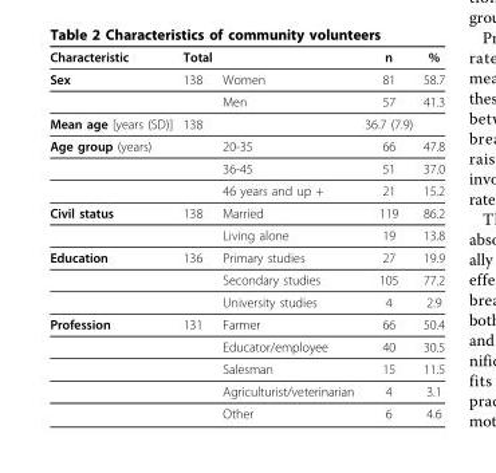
<table><thead><tr><td>Characteristic</td><td>Total</td><td></td><td>n</td><td>%</td></tr></thead><tbody><tr><td rowspan="2">Sex</td><td>138</td><td>Women</td><td>81</td><td>58.7</td></tr><tr><td></td><td>Men</td><td>57</td><td>41.3</td></tr><tr><td>Mean age [years (SD)]</td><td>138</td><td></td><td>36.7 (7.9)</td><td></td></tr><tr><td rowspan="3">Age group (years)</td><td></td><td>20-35</td><td>66</td><td>47.8</td></tr><tr><td></td><td>36-45</td><td>51</td><td>37.0</td></tr><tr><td></td><td>46 years and up +</td><td>21</td><td>15.2</td></tr><tr><td rowspan="2">Civil status</td><td>138</td><td>Married</td><td>119</td><td>86.2</td></tr><tr><td></td><td>Living alone</td><td>19</td><td>13.8</td></tr><tr><td rowspan="3">Education</td><td>136</td><td>Primary studies</td><td>27</td><td>19.9</td></tr><tr><td></td><td>Secondary studies</td><td>105</td><td>77.2</td></tr><tr><td></td><td>University studies</td><td>4</td><td>2.9</td></tr><tr><td rowspan="5">Profession</td><td>131</td><td>Farmer</td><td>66</td><td>50.4</td></tr><tr><td></td><td>Educator/employee</td><td>40</td><td>30.5</td></tr><tr><td></td><td>Salesman</td><td>15</td><td>11.5</td></tr><tr><td></td><td>Agriculturist/veterinarian</td><td>4</td><td>3.1</td></tr><tr><td></td><td>Other</td><td>6</td><td>4.6</td></tr></tbody></table>